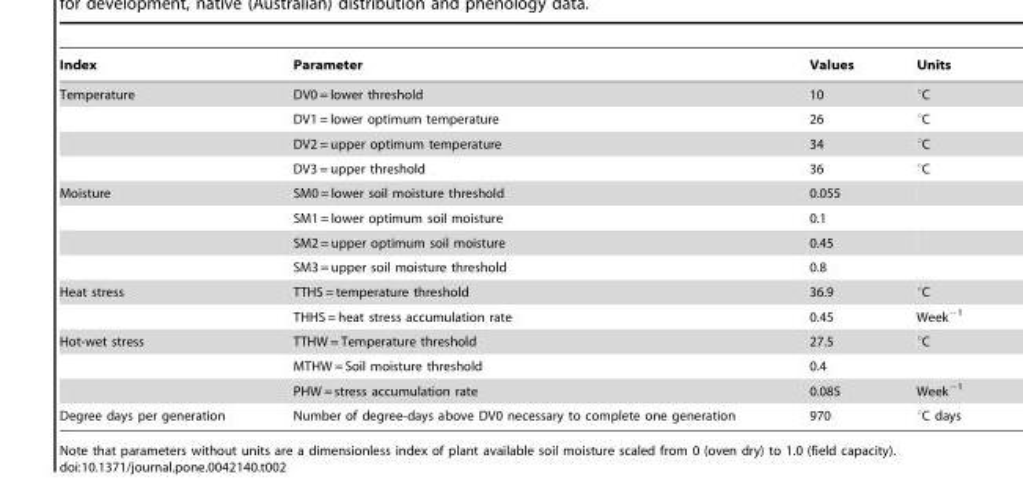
<table><thead><tr><td>Index</td><td>Parameter</td><td>Values</td><td>Units</td></tr></thead><tbody><tr><td rowspan="4">Temperature</td><td>DV0 = lower threshold</td><td>10</td><td>°C</td></tr><tr><td>DV1 = lower optimum temperature</td><td>26</td><td>°C</td></tr><tr><td>DV2 = upper optimum temperature</td><td>34</td><td>°C</td></tr><tr><td>DV3 = upper threshold</td><td>36</td><td>°C</td></tr><tr><td rowspan="4">Moisture</td><td>SM0 = lower soil moisture threshold</td><td>0.055</td><td></td></tr><tr><td>SM1 = lower optimum soil moisture</td><td>0.1</td><td></td></tr><tr><td>SM2 = upper optimum soil moisture</td><td>0.45</td><td></td></tr><tr><td>SM3 = upper soil moisture threshold</td><td>0.8</td><td></td></tr><tr><td rowspan="2">Heat stress</td><td>TTHS = temperature threshold</td><td>36.9</td><td>°C</td></tr><tr><td>THHS = heat stress accumulation rate</td><td>0.45</td><td>Week<sup>−1</sup></td></tr><tr><td rowspan="3">Hot-wet stress</td><td>TTHW = Temperature threshold</td><td>27.5</td><td>°C</td></tr><tr><td>MTHW = Soil moisture threshold</td><td>0.4</td><td></td></tr><tr><td>PHW = stress accumulation rate</td><td>0.085</td><td>Week<sup>−1</sup></td></tr><tr><td>Degree days per generation</td><td>Number of degree-days above DV0 necessary to complete one generation</td><td>970</td><td>°C days</td></tr></tbody></table>